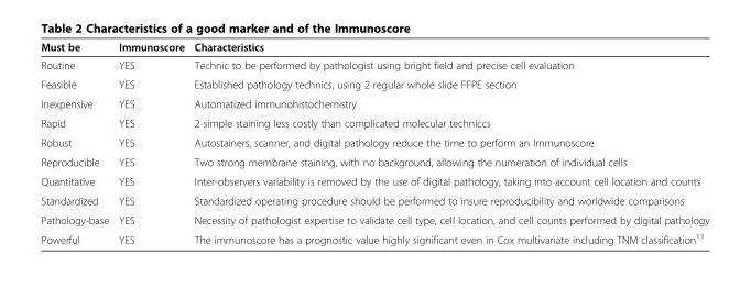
<table><thead><tr><td>Must be</td><td>Immunoscore</td><td>Characteristics</td></tr></thead><tbody><tr><td>Routine</td><td>YES</td><td>Technic to be performed by pathologist using bright field and precise cell evaluation</td></tr><tr><td>Feasible</td><td>YES</td><td>Established pathology technics, using 2 regular whole slide FFPE section</td></tr><tr><td>Inexpensive</td><td>YES</td><td>Automatized immunohistochemistry</td></tr><tr><td>Rapid</td><td>YES</td><td>2 simple staining less costly than complicated molecular techniccs</td></tr><tr><td>Robust</td><td>YES</td><td>Autostainers, scanner, and digital pathology reduce the time to perform an Immunoscore</td></tr><tr><td>Reproducible</td><td>YES</td><td>Two strong membrane staining, with no background, allowing the numeration of individual cells</td></tr><tr><td>Quantitative</td><td>YES</td><td>Inter-observers variability is removed by the use of digital pathology, taking into account cell location and counts</td></tr><tr><td>Standardized</td><td>YES</td><td>Standardized operating procedure should be performed to insure reproducibility and worldwide comparisons</td></tr><tr><td>Pathology-base</td><td>YES</td><td>Necessity of pathologist expertise to validate cell type, cell location, and cell counts performed by digital pathology</td></tr><tr><td>Powerful</td><td>YES</td><td>The immunoscore has a prognostic value highly significant even in Cox multivariate including TNM classification<sup>13</sup></td></tr></tbody></table>